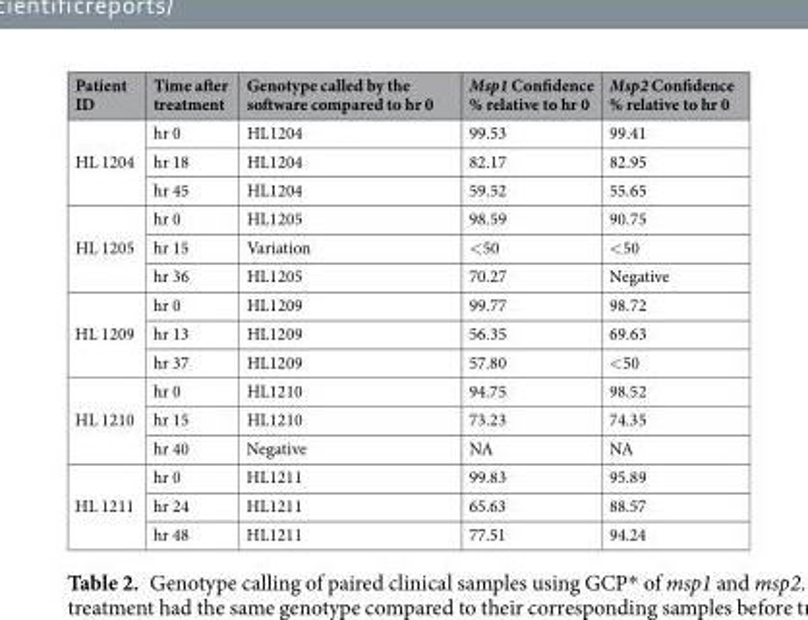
<table><thead><tr><td>Patient ID</td><td>Time after treatment</td><td>Genotype called by the software compared to hr 0</td><td>Msp1 Confidence % relative to hr 0</td><td>Msp2 Confidence % relative to hr 0</td></tr></thead><tbody><tr><td rowspan="3">HL 1204</td><td>hr 0</td><td>HL1204</td><td>99.53</td><td>99.41</td></tr><tr><td>hr 18</td><td>HL1204</td><td>82.17</td><td>82.95</td></tr><tr><td>hr 45</td><td>HL1204</td><td>59.52</td><td>55.65</td></tr><tr><td rowspan="3">HL 1205</td><td>hr 0</td><td>HL1205</td><td>98.59</td><td>90.75</td></tr><tr><td>hr 15</td><td>Variation</td><td>&lt;50</td><td>&lt;50</td></tr><tr><td>hr 36</td><td>HL1205</td><td>70.27</td><td>Negative</td></tr><tr><td rowspan="3">HL 1209</td><td>hr 0</td><td>HL1209</td><td>99.77</td><td>98.72</td></tr><tr><td>hr 13</td><td>HL1209</td><td>56.35</td><td>69.63</td></tr><tr><td>hr 37</td><td>HL1209</td><td>57.80</td><td>&lt;50</td></tr><tr><td rowspan="3">HL 1210</td><td>hr 0</td><td>HL1210</td><td>94.75</td><td>98.52</td></tr><tr><td>hr 15</td><td>HL1210</td><td>73.23</td><td>74.35</td></tr><tr><td>hr 40</td><td>Negative</td><td>NA</td><td>NA</td></tr><tr><td rowspan="3">HL 1211</td><td>hr 0</td><td>HL1211</td><td>99.83</td><td>95.89</td></tr><tr><td>hr 24</td><td>HL1211</td><td>65.63</td><td>88.57</td></tr><tr><td>hr 48</td><td>HL1211</td><td>77.51</td><td>94.24</td></tr></tbody></table>